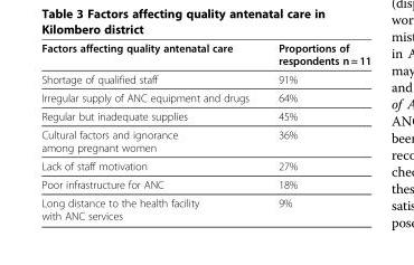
<table><thead><tr><td>Factors affecting quality antenatal care</td><td>Proportions of respondents n = 11</td></tr></thead><tbody><tr><td>Shortage of qualified staff</td><td>91%</td></tr><tr><td>Irregular supply of ANC equipment and drugs</td><td>64%</td></tr><tr><td>Regular but inadequate supplies</td><td>45%</td></tr><tr><td>Cultural factors and ignorance among pregnant women</td><td>36%</td></tr><tr><td>Lack of staff motivation</td><td>27%</td></tr><tr><td>Poor infrastructure for ANC</td><td>18%</td></tr><tr><td>Long distance to the health facility with ANC services</td><td>9%</td></tr></tbody></table>